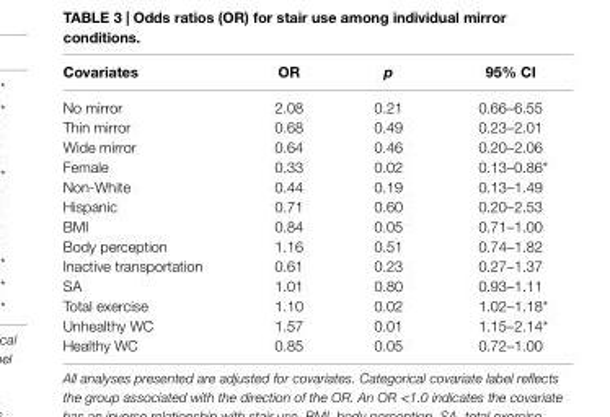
<table><thead><tr><td>covariates</td><td>Or</td><td>p</td><td>95% ci</td></tr></thead><tbody><tr><td>No mirror</td><td>2.08</td><td>0.21</td><td>0.66–6.55</td></tr><tr><td>Thin mirror</td><td>0.68</td><td>0.49</td><td>0.23–2.01</td></tr><tr><td>Wide mirror</td><td>0.64</td><td>0.46</td><td>0.20–2.06</td></tr><tr><td>Female</td><td>0.33</td><td>0.02</td><td>0.13–0.86*</td></tr><tr><td>Non-White</td><td>0.44</td><td>0.19</td><td>0.13–1.49</td></tr><tr><td>Hispanic</td><td>0.71</td><td>0.60</td><td>0.20–2.53</td></tr><tr><td>BMI</td><td>0.84</td><td>0.05</td><td>0.71–1.00</td></tr><tr><td>Body perception</td><td>1.16</td><td>0.51</td><td>0.74–1.82</td></tr><tr><td>Inactive transportation</td><td>0.61</td><td>0.23</td><td>0.27–1.37</td></tr><tr><td>SA</td><td>1.01</td><td>0.80</td><td>0.93–1.11</td></tr><tr><td>Total exercise</td><td>1.10</td><td>0.02</td><td>1.02–1.18*</td></tr><tr><td>Unhealthy WC</td><td>1.57</td><td>0.01</td><td>1.15–2.14*</td></tr><tr><td>Healthy WC</td><td>0.85</td><td>0.05</td><td>0.72–1.00</td></tr></tbody></table>